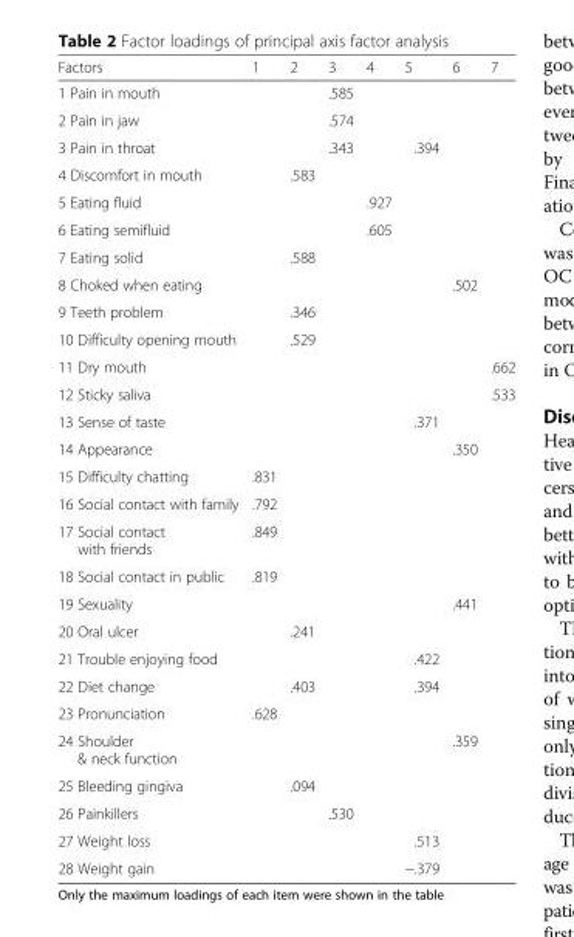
<table><thead><tr><td>Factors</td><td>1</td><td>2</td><td>3</td><td>4</td><td>5</td><td>6</td><td>7</td></tr></thead><tbody><tr><td>1 Pain in mouth</td><td></td><td></td><td>.585</td><td></td><td></td><td></td><td></td></tr><tr><td>2 Pain in jaw</td><td></td><td></td><td>.574</td><td></td><td></td><td></td><td></td></tr><tr><td>3 Pain in throat</td><td></td><td></td><td>.343</td><td></td><td>.394</td><td></td><td></td></tr><tr><td>4 Discomfort in mouth</td><td></td><td>.583</td><td></td><td></td><td></td><td></td><td></td></tr><tr><td>5 Eating fluid</td><td></td><td></td><td></td><td>.927</td><td></td><td></td><td></td></tr><tr><td>6 Eating semifluid</td><td></td><td></td><td></td><td>.605</td><td></td><td></td><td></td></tr><tr><td>7 Eating solid</td><td></td><td>.588</td><td></td><td></td><td></td><td></td><td></td></tr><tr><td>8 Choked when eating</td><td></td><td></td><td></td><td></td><td></td><td>.502</td><td></td></tr><tr><td>9 Teeth problem</td><td></td><td>.346</td><td></td><td></td><td></td><td></td><td></td></tr><tr><td>10 Difficulty opening mouth</td><td></td><td>.529</td><td></td><td></td><td></td><td></td><td></td></tr><tr><td>11 Dry mouth</td><td></td><td></td><td></td><td></td><td></td><td></td><td>.662</td></tr><tr><td>12 Sticky saliva</td><td></td><td></td><td></td><td></td><td></td><td></td><td>.533</td></tr><tr><td>13 Sense of taste</td><td></td><td></td><td></td><td></td><td>.371</td><td></td><td></td></tr><tr><td>14 Appearance</td><td></td><td></td><td></td><td></td><td></td><td>.350</td><td></td></tr><tr><td>15 Difficulty chatting</td><td>.831</td><td></td><td></td><td></td><td></td><td></td><td></td></tr><tr><td>16 Social contact with family</td><td>.792</td><td></td><td></td><td></td><td></td><td></td><td></td></tr><tr><td>17 Social contact with friends</td><td>.849</td><td></td><td></td><td></td><td></td><td></td><td></td></tr><tr><td>18 Social contact in public</td><td>.819</td><td></td><td></td><td></td><td></td><td></td><td></td></tr><tr><td>19 Sexuality</td><td></td><td></td><td></td><td></td><td></td><td>.441</td><td></td></tr><tr><td>20 Oral ulcer</td><td></td><td>.241</td><td></td><td></td><td></td><td></td><td></td></tr><tr><td>21 Trouble enjoying food</td><td></td><td></td><td></td><td></td><td>.422</td><td></td><td></td></tr><tr><td>22 Diet change</td><td></td><td>.403</td><td></td><td></td><td>.394</td><td></td><td></td></tr><tr><td>23 Pronunciation</td><td>.628</td><td></td><td></td><td></td><td></td><td></td><td></td></tr><tr><td>24 Shoulder &amp; neck function</td><td></td><td></td><td></td><td></td><td></td><td>.359</td><td></td></tr><tr><td>25 Bleeding gingiva</td><td></td><td>.094</td><td></td><td></td><td></td><td></td><td></td></tr><tr><td>26 Painkillers</td><td></td><td></td><td>.530</td><td></td><td></td><td></td><td></td></tr><tr><td>27 Weight loss</td><td></td><td></td><td></td><td></td><td>.513</td><td></td><td></td></tr><tr><td>28 Weight gain</td><td></td><td></td><td></td><td></td><td>−.379</td><td></td><td></td></tr></tbody></table>